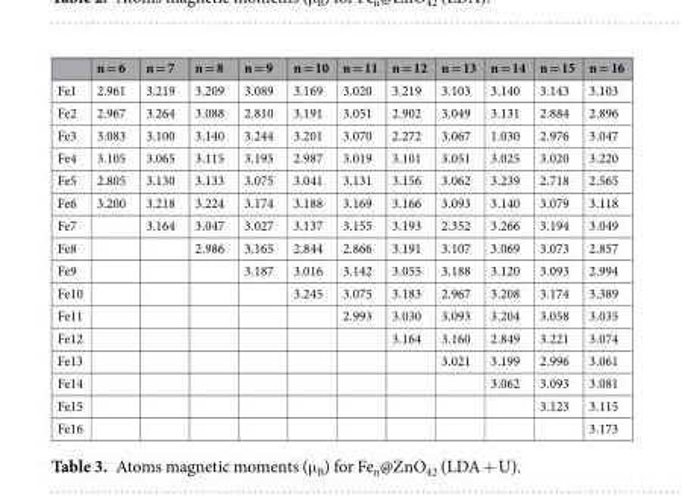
<table><thead><tr><td></td><td>n = 6</td><td>n = 7</td><td>n = 8</td><td>n = 9</td><td>n = 10</td><td>n = 11</td><td>n = 12</td><td>n = 13</td><td>n = 14</td><td>n = 15</td><td>n = 16</td></tr></thead><tbody><tr><td>Fe1</td><td>2.961</td><td>3.219</td><td>3.209</td><td>3.089</td><td>3.169</td><td>3.020</td><td>3.219</td><td>3.103</td><td>3.140</td><td>3.143</td><td>3.103</td></tr><tr><td>Fe2</td><td>2.967</td><td>3.264</td><td>3.088</td><td>2.810</td><td>3.191</td><td>3.051</td><td>2.902</td><td>3.049</td><td>3.131</td><td>2.884</td><td>2.896</td></tr><tr><td>Fe3</td><td>3.083</td><td>3.100</td><td>3.140</td><td>3.244</td><td>3.201</td><td>3.070</td><td>2.272</td><td>3.067</td><td>1.030</td><td>2.976</td><td>3.047</td></tr><tr><td>Fe4</td><td>3.105</td><td>3.065</td><td>3.115</td><td>3.195</td><td>2.987</td><td>3.019</td><td>3.101</td><td>3.051</td><td>3.025</td><td>3.020</td><td>3.220</td></tr><tr><td>Fe5</td><td>2.805</td><td>3.130</td><td>3.133</td><td>3.075</td><td>3.041</td><td>3.131</td><td>3.156</td><td>3.062</td><td>3.239</td><td>2.718</td><td>2.565</td></tr><tr><td>Fe6</td><td>3.200</td><td>3.218</td><td>3.224</td><td>3.174</td><td>3.188</td><td>3.169</td><td>3.166</td><td>3.093</td><td>3.140</td><td>3.079</td><td>3.118</td></tr><tr><td>Fe7</td><td></td><td>3.164</td><td>3.047</td><td>3.027</td><td>3.137</td><td>3.155</td><td>3.193</td><td>2.352</td><td>3.266</td><td>3.194</td><td>3.049</td></tr><tr><td>Fe8</td><td></td><td></td><td>2.986</td><td>3.165</td><td>2.844</td><td>2.866</td><td>3.191</td><td>3.107</td><td>3.069</td><td>3.073</td><td>2.857</td></tr><tr><td>Fe9</td><td></td><td></td><td></td><td>3.187</td><td>3.016</td><td>3.142</td><td>3.055</td><td>3.188</td><td>3.120</td><td>3.093</td><td>2.994</td></tr><tr><td>Fe10</td><td></td><td></td><td></td><td></td><td>3.245</td><td>3.075</td><td>3.183</td><td>2.967</td><td>3.208</td><td>3.174</td><td>3.389</td></tr><tr><td>Fe11</td><td></td><td></td><td></td><td></td><td></td><td>2.993</td><td>3.030</td><td>3.093</td><td>3.204</td><td>3.058</td><td>3.035</td></tr><tr><td>Fe12</td><td></td><td></td><td></td><td></td><td></td><td></td><td>3.164</td><td>3.160</td><td>2.849</td><td>3.221</td><td>3.074</td></tr><tr><td>Fe13</td><td></td><td></td><td></td><td></td><td></td><td></td><td></td><td>3.021</td><td>3.199</td><td>2.996</td><td>3.061</td></tr><tr><td>Fe14</td><td></td><td></td><td></td><td></td><td></td><td></td><td></td><td></td><td>3.062</td><td>3.093</td><td>3.081</td></tr><tr><td>Fe15</td><td></td><td></td><td></td><td></td><td></td><td></td><td></td><td></td><td></td><td>3.123</td><td>3.115</td></tr><tr><td>Fe16</td><td></td><td></td><td></td><td></td><td></td><td></td><td></td><td></td><td></td><td></td><td>3.173</td></tr></tbody></table>